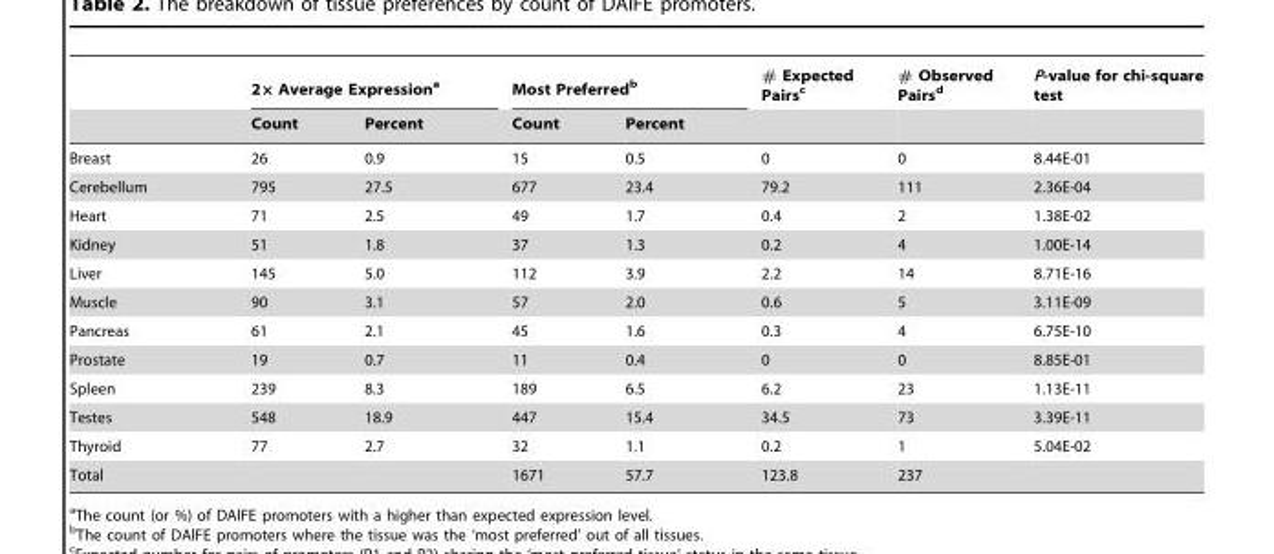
<table><thead><tr><td rowspan="2"></td><td colspan="2">2× Average Expression<sup>a</sup></td><td colspan="2">Most Preferred<sup>b</sup></td><td rowspan="2"># Expected Pairs<sup>c</sup></td><td rowspan="2"># Observed Pairs<sup>d</sup></td><td rowspan="2">P-value for chi-square test</td></tr><tr><td>Count</td><td>Percent</td><td>Count</td><td>Percent</td></tr></thead><tbody><tr><td>Breast</td><td>26</td><td>0.9</td><td>15</td><td>0.5</td><td>0</td><td>0</td><td>8.44E-01</td></tr><tr><td>Cerebellum</td><td>795</td><td>27.5</td><td>677</td><td>23.4</td><td>79.2</td><td>111</td><td>2.36E-04</td></tr><tr><td>Heart</td><td>71</td><td>2.5</td><td>49</td><td>1.7</td><td>0.4</td><td>2</td><td>1.38E-02</td></tr><tr><td>Kidney</td><td>51</td><td>1.8</td><td>37</td><td>1.3</td><td>0.2</td><td>4</td><td>1.00E-14</td></tr><tr><td>Liver</td><td>145</td><td>5.0</td><td>112</td><td>3.9</td><td>2.2</td><td>14</td><td>8.71E-16</td></tr><tr><td>Muscle</td><td>90</td><td>3.1</td><td>57</td><td>2.0</td><td>0.6</td><td>5</td><td>3.11E-09</td></tr><tr><td>Pancreas</td><td>61</td><td>2.1</td><td>45</td><td>1.6</td><td>0.3</td><td>4</td><td>6.75E-10</td></tr><tr><td>Prostate</td><td>19</td><td>0.7</td><td>11</td><td>0.4</td><td>0</td><td>0</td><td>8.85E-01</td></tr><tr><td>Spleen</td><td>239</td><td>8.3</td><td>189</td><td>6.5</td><td>6.2</td><td>23</td><td>1.13E-11</td></tr><tr><td>Testes</td><td>548</td><td>18.9</td><td>447</td><td>15.4</td><td>34.5</td><td>73</td><td>3.39E-11</td></tr><tr><td>Thyroid</td><td>77</td><td>2.7</td><td>32</td><td>1.1</td><td>0.2</td><td>1</td><td>5.04E-02</td></tr><tr><td>Total</td><td></td><td></td><td>1671</td><td>57.7</td><td>123.8</td><td>237</td><td></td></tr></tbody></table>